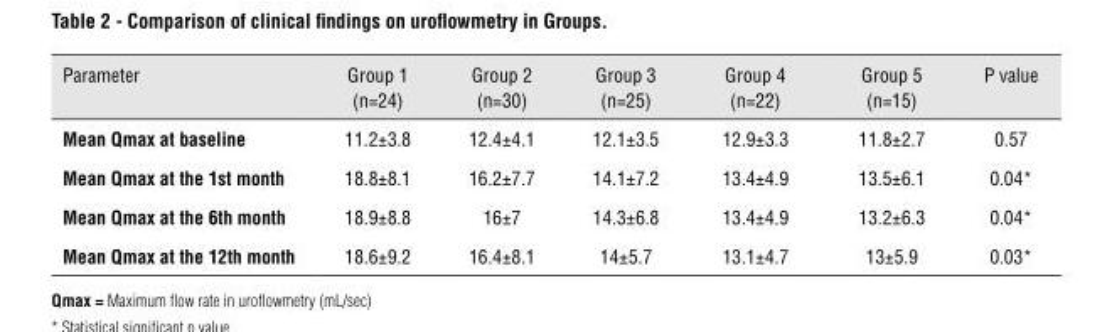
<table><thead><tr><td>Parameter</td><td>Group 1 (n=24)</td><td>Group 2 (n=30)</td><td>Group 3 (n=25)</td><td>Group 4 (n=22)</td><td>Group 5 (n=15)</td><td>P value</td></tr></thead><tbody><tr><td>Mean Qmax at baseline</td><td>11.2±3.8</td><td>12.4±4.1</td><td>12.1±3.5</td><td>12.9±3.3</td><td>11.8±2.7</td><td>0.57</td></tr><tr><td>Mean Qmax at the 1st month</td><td>18.8±8.1</td><td>16.2±7.7</td><td>14.1±7.2</td><td>13.4±4.9</td><td>13.5±6.1</td><td>0.04*</td></tr><tr><td>Mean Qmax at the 6th month</td><td>18.9±8.8</td><td>16±7</td><td>14.3±6.8</td><td>13.4±4.9</td><td>13.2±6.3</td><td>0.04*</td></tr><tr><td>Mean Qmax at the 12th month</td><td>18.6±9.2</td><td>16.4±8.1</td><td>14±5.7</td><td>13.1±4.7</td><td>13±5.9</td><td>0.03*</td></tr></tbody></table>